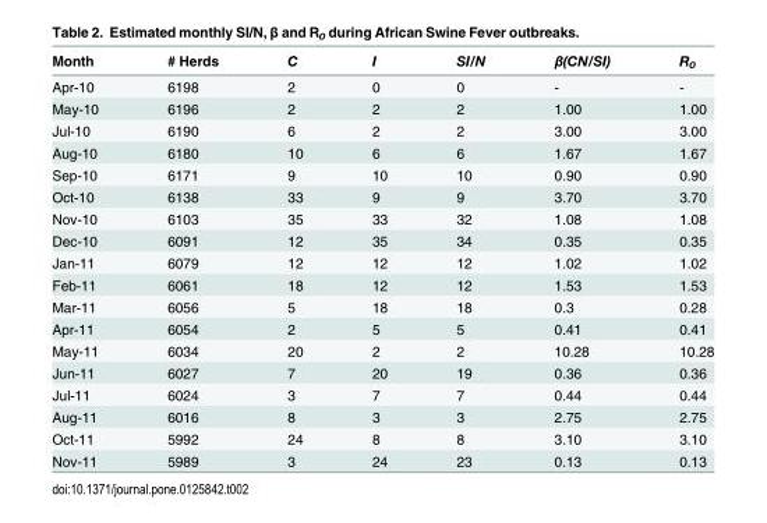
<table><thead><tr><td>Month</td><td># Herds</td><td>C</td><td>I</td><td>SI/N</td><td>β(CN/SI)</td><td>R<sub>0</sub></td></tr></thead><tbody><tr><td>Apr-10</td><td>6198</td><td>2</td><td>0</td><td>0</td><td>-</td><td>-</td></tr><tr><td>May-10</td><td>6196</td><td>2</td><td>2</td><td>2</td><td>1.00</td><td>1.00</td></tr><tr><td>Jul-10</td><td>6190</td><td>6</td><td>2</td><td>2</td><td>3.00</td><td>3.00</td></tr><tr><td>Aug-10</td><td>6180</td><td>10</td><td>6</td><td>6</td><td>1.67</td><td>1.67</td></tr><tr><td>Sep-10</td><td>6171</td><td>9</td><td>10</td><td>10</td><td>0.90</td><td>0.90</td></tr><tr><td>Oct-10</td><td>6138</td><td>33</td><td>9</td><td>9</td><td>3.70</td><td>3.70</td></tr><tr><td>Nov-10</td><td>6103</td><td>35</td><td>33</td><td>32</td><td>1.08</td><td>1.08</td></tr><tr><td>Dec-10</td><td>6091</td><td>12</td><td>35</td><td>34</td><td>0.35</td><td>0.35</td></tr><tr><td>Jan-11</td><td>6079</td><td>12</td><td>12</td><td>12</td><td>1.02</td><td>1.02</td></tr><tr><td>Feb-11</td><td>6061</td><td>18</td><td>12</td><td>12</td><td>1.53</td><td>1.53</td></tr><tr><td>Mar-11</td><td>6056</td><td>5</td><td>18</td><td>18</td><td>0.3</td><td>0.28</td></tr><tr><td>Apr-11</td><td>6054</td><td>2</td><td>5</td><td>5</td><td>0.41</td><td>0.41</td></tr><tr><td>May-11</td><td>6034</td><td>20</td><td>2</td><td>2</td><td>10.28</td><td>10.28</td></tr><tr><td>Jun-11</td><td>6027</td><td>7</td><td>20</td><td>19</td><td>0.36</td><td>0.36</td></tr><tr><td>Jul-11</td><td>6024</td><td>3</td><td>7</td><td>7</td><td>0.44</td><td>0.44</td></tr><tr><td>Aug-11</td><td>6016</td><td>8</td><td>3</td><td>3</td><td>2.75</td><td>2.75</td></tr><tr><td>Oct-11</td><td>5992</td><td>24</td><td>8</td><td>8</td><td>3.10</td><td>3.10</td></tr><tr><td>Nov-11</td><td>5989</td><td>3</td><td>24</td><td>23</td><td>0.13</td><td>0.13</td></tr></tbody></table>